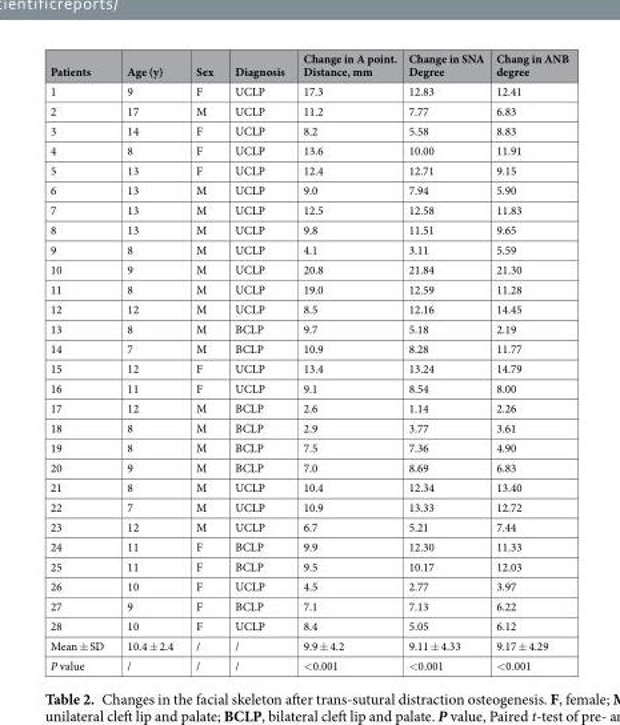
<table><thead><tr><td>Patients</td><td>Age (y)</td><td>Sex</td><td>Diagnosis</td><td>Change in A point. Distance, mm</td><td>Change in SNA Degree</td><td>Chang in ANB degree</td></tr></thead><tbody><tr><td>1</td><td>9</td><td>F</td><td>UCLP</td><td>17.3</td><td>12.83</td><td>12.41</td></tr><tr><td>2</td><td>17</td><td>M</td><td>UCLP</td><td>11.2</td><td>7.77</td><td>6.83</td></tr><tr><td>3</td><td>14</td><td>F</td><td>UCLP</td><td>8.2</td><td>5.58</td><td>8.83</td></tr><tr><td>4</td><td>8</td><td>F</td><td>UCLP</td><td>13.6</td><td>10.00</td><td>11.91</td></tr><tr><td>5</td><td>13</td><td>F</td><td>UCLP</td><td>12.4</td><td>12.71</td><td>9.15</td></tr><tr><td>6</td><td>13</td><td>M</td><td>UCLP</td><td>9.0</td><td>7.94</td><td>5.90</td></tr><tr><td>7</td><td>13</td><td>M</td><td>UCLP</td><td>12.5</td><td>12.58</td><td>11.83</td></tr><tr><td>8</td><td>13</td><td>M</td><td>UCLP</td><td>9.8</td><td>11.51</td><td>9.65</td></tr><tr><td>9</td><td>8</td><td>M</td><td>UCLP</td><td>4.1</td><td>3.11</td><td>5.59</td></tr><tr><td>10</td><td>9</td><td>M</td><td>UCLP</td><td>20.8</td><td>21.84</td><td>21.30</td></tr><tr><td>11</td><td>8</td><td>M</td><td>UCLP</td><td>19.0</td><td>12.59</td><td>11.28</td></tr><tr><td>12</td><td>12</td><td>M</td><td>UCLP</td><td>8.5</td><td>12.16</td><td>14.45</td></tr><tr><td>13</td><td>8</td><td>M</td><td>BCLP</td><td>9.7</td><td>5.18</td><td>2.19</td></tr><tr><td>14</td><td>7</td><td>M</td><td>BCLP</td><td>10.9</td><td>8.28</td><td>11.77</td></tr><tr><td>15</td><td>12</td><td>F</td><td>UCLP</td><td>13.4</td><td>13.24</td><td>14.79</td></tr><tr><td>16</td><td>11</td><td>F</td><td>UCLP</td><td>9.1</td><td>8.54</td><td>8.00</td></tr><tr><td>17</td><td>12</td><td>M</td><td>BCLP</td><td>2.6</td><td>1.14</td><td>2.26</td></tr><tr><td>18</td><td>8</td><td>M</td><td>BCLP</td><td>2.9</td><td>3.77</td><td>3.61</td></tr><tr><td>19</td><td>8</td><td>M</td><td>BCLP</td><td>7.5</td><td>7.36</td><td>4.90</td></tr><tr><td>20</td><td>9</td><td>M</td><td>BCLP</td><td>7.0</td><td>8.69</td><td>6.83</td></tr><tr><td>21</td><td>8</td><td>M</td><td>UCLP</td><td>10.4</td><td>12.34</td><td>13.40</td></tr><tr><td>22</td><td>7</td><td>M</td><td>UCLP</td><td>10.9</td><td>13.33</td><td>12.72</td></tr><tr><td>23</td><td>12</td><td>M</td><td>UCLP</td><td>6.7</td><td>5.21</td><td>7.44</td></tr><tr><td>24</td><td>11</td><td>F</td><td>BCLP</td><td>9.9</td><td>12.30</td><td>11.33</td></tr><tr><td>25</td><td>11</td><td>F</td><td>BCLP</td><td>9.5</td><td>10.17</td><td>12.03</td></tr><tr><td>26</td><td>10</td><td>F</td><td>UCLP</td><td>4.5</td><td>2.77</td><td>3.97</td></tr><tr><td>27</td><td>9</td><td>F</td><td>BCLP</td><td>7.1</td><td>7.13</td><td>6.22</td></tr><tr><td>28</td><td>10</td><td>F</td><td>UCLP</td><td>8.4</td><td>5.05</td><td>6.12</td></tr><tr><td>Mean ± SD</td><td>10.4 ± 2.4</td><td>/</td><td>/</td><td>9.9 ± 4.2</td><td>9.11 ± 4.33</td><td>9.17 ± 4.29</td></tr><tr><td>P value</td><td>/</td><td>/</td><td>/</td><td>&lt;0.001</td><td>&lt;0.001</td><td>&lt;0.001</td></tr></tbody></table>